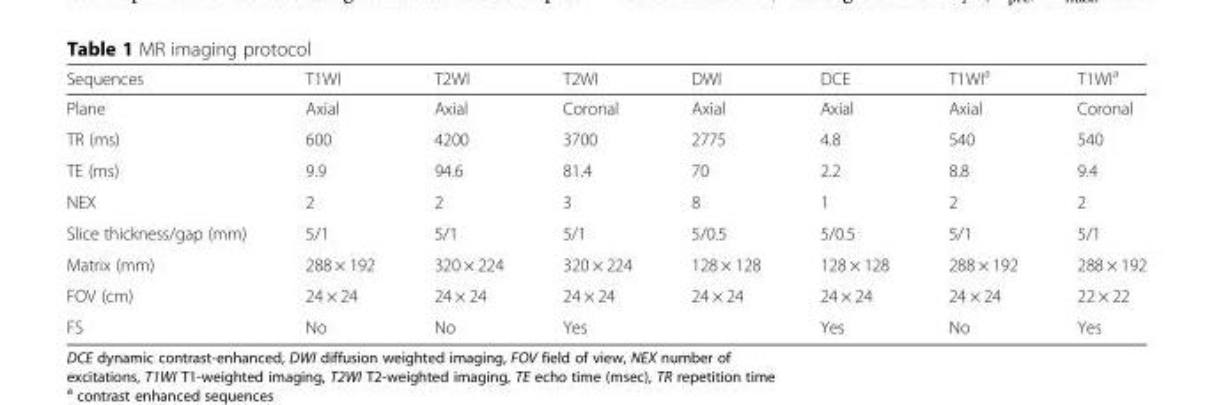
<table><thead><tr><td>Sequences</td><td>T1WI</td><td>T2WI</td><td>T2WI</td><td>DWI</td><td>DCE</td><td>T1WI<sup>a</sup></td><td>T1WI<sup>a</sup></td></tr></thead><tbody><tr><td>Plane</td><td>Axial</td><td>Axial</td><td>Coronal</td><td>Axial</td><td>Axial</td><td>Axial</td><td>Coronal</td></tr><tr><td>TR (ms)</td><td>600</td><td>4200</td><td>3700</td><td>2775</td><td>4.8</td><td>540</td><td>540</td></tr><tr><td>TE (ms)</td><td>9.9</td><td>94.6</td><td>81.4</td><td>70</td><td>2.2</td><td>8.8</td><td>9.4</td></tr><tr><td>NEX</td><td>2</td><td>2</td><td>3</td><td>8</td><td>1</td><td>2</td><td>2</td></tr><tr><td>Slice thickness/gap (mm)</td><td>5/1</td><td>5/1</td><td>5/1</td><td>5/0.5</td><td>5/0.5</td><td>5/1</td><td>5/1</td></tr><tr><td>Matrix (mm)</td><td>288 × 192</td><td>320 × 224</td><td>320 × 224</td><td>128 × 128</td><td>128 × 128</td><td>288 × 192</td><td>288 × 192</td></tr><tr><td>FOV (cm)</td><td>24 × 24</td><td>24 × 24</td><td>24 × 24</td><td>24 × 24</td><td>24 × 24</td><td>24 × 24</td><td>22 × 22</td></tr><tr><td>FS</td><td>No</td><td>No</td><td>Yes</td><td></td><td>Yes</td><td>No</td><td>Yes</td></tr></tbody></table>